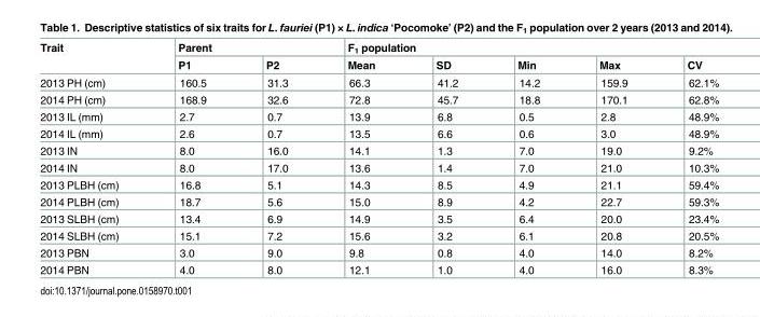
<table><thead><tr><td rowspan="2">Trait</td><td colspan="2">Parent</td><td colspan="5">F<sub>1</sub> population</td></tr><tr><td>P1</td><td>P2</td><td>Mean</td><td>SD</td><td>Min</td><td>Max</td><td>CV</td></tr></thead><tbody><tr><td>2013 PH (cm)</td><td>160.5</td><td>31.3</td><td>66.3</td><td>41.2</td><td>14.2</td><td>159.9</td><td>62.1%</td></tr><tr><td>2014 PH (cm)</td><td>168.9</td><td>32.6</td><td>72.8</td><td>45.7</td><td>18.8</td><td>170.1</td><td>62.8%</td></tr><tr><td>2013 IL (mm)</td><td>2.7</td><td>0.7</td><td>13.9</td><td>6.8</td><td>0.5</td><td>2.8</td><td>48.9%</td></tr><tr><td>2014 IL (mm)</td><td>2.6</td><td>0.7</td><td>13.5</td><td>6.6</td><td>0.6</td><td>3.0</td><td>48.9%</td></tr><tr><td>2013 IN</td><td>8.0</td><td>16.0</td><td>14.1</td><td>1.3</td><td>7.0</td><td>19.0</td><td>9.2%</td></tr><tr><td>2014 IN</td><td>8.0</td><td>17.0</td><td>13.6</td><td>1.4</td><td>7.0</td><td>21.0</td><td>10.3%</td></tr><tr><td>2013 PLBH (cm)</td><td>16.8</td><td>5.1</td><td>14.3</td><td>8.5</td><td>4.9</td><td>21.1</td><td>59.4%</td></tr><tr><td>2014 PLBH (cm)</td><td>18.7</td><td>5.6</td><td>15.0</td><td>8.9</td><td>4.2</td><td>22.7</td><td>59.3%</td></tr><tr><td>2013 SLBH (cm)</td><td>13.4</td><td>6.9</td><td>14.9</td><td>3.5</td><td>6.4</td><td>20.0</td><td>23.4%</td></tr><tr><td>2014 SLBH (cm)</td><td>15.1</td><td>7.2</td><td>15.6</td><td>3.2</td><td>6.1</td><td>20.8</td><td>20.5%</td></tr><tr><td>2013 PBN</td><td>3.0</td><td>9.0</td><td>9.8</td><td>0.8</td><td>4.0</td><td>14.0</td><td>8.2%</td></tr><tr><td>2014 PBN</td><td>4.0</td><td>8.0</td><td>12.1</td><td>1.0</td><td>4.0</td><td>16.0</td><td>8.3%</td></tr></tbody></table>